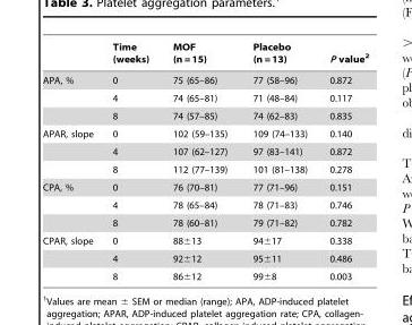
<table><thead><tr><td></td><td>Time (weeks)</td><td>MOF (n = 15)</td><td>Placebo (n = 13)</td><td>P value<sup>2</sup></td></tr></thead><tbody><tr><td rowspan="3">APA, %</td><td>0</td><td>75 (65–86)</td><td>77 (58–96)</td><td>0.872</td></tr><tr><td>4</td><td>74 (65–81)</td><td>71 (48–84)</td><td>0.117</td></tr><tr><td>8</td><td>74 (57–85)</td><td>74 (62–83)</td><td>0.835</td></tr><tr><td rowspan="3">APAR, slope</td><td>0</td><td>102 (59–135)</td><td>109 (74–133)</td><td>0.140</td></tr><tr><td>4</td><td>107 (62–127)</td><td>97 (83–141)</td><td>0.872</td></tr><tr><td>8</td><td>112 (77–139)</td><td>101 (81–138)</td><td>0.278</td></tr><tr><td rowspan="3">CPA, %</td><td>0</td><td>76 (70–81)</td><td>77 (71–96)</td><td>0.151</td></tr><tr><td>4</td><td>78 (65–84)</td><td>78 (71–83)</td><td>0.746</td></tr><tr><td>8</td><td>78 (60–81)</td><td>79 (71–82)</td><td>0.782</td></tr><tr><td rowspan="3">CPAR, slope</td><td>0</td><td>88±13</td><td>94±17</td><td>0.338</td></tr><tr><td>4</td><td>92±12</td><td>95±11</td><td>0.486</td></tr><tr><td>8</td><td>86±12</td><td>99±8</td><td>0.003</td></tr></tbody></table>